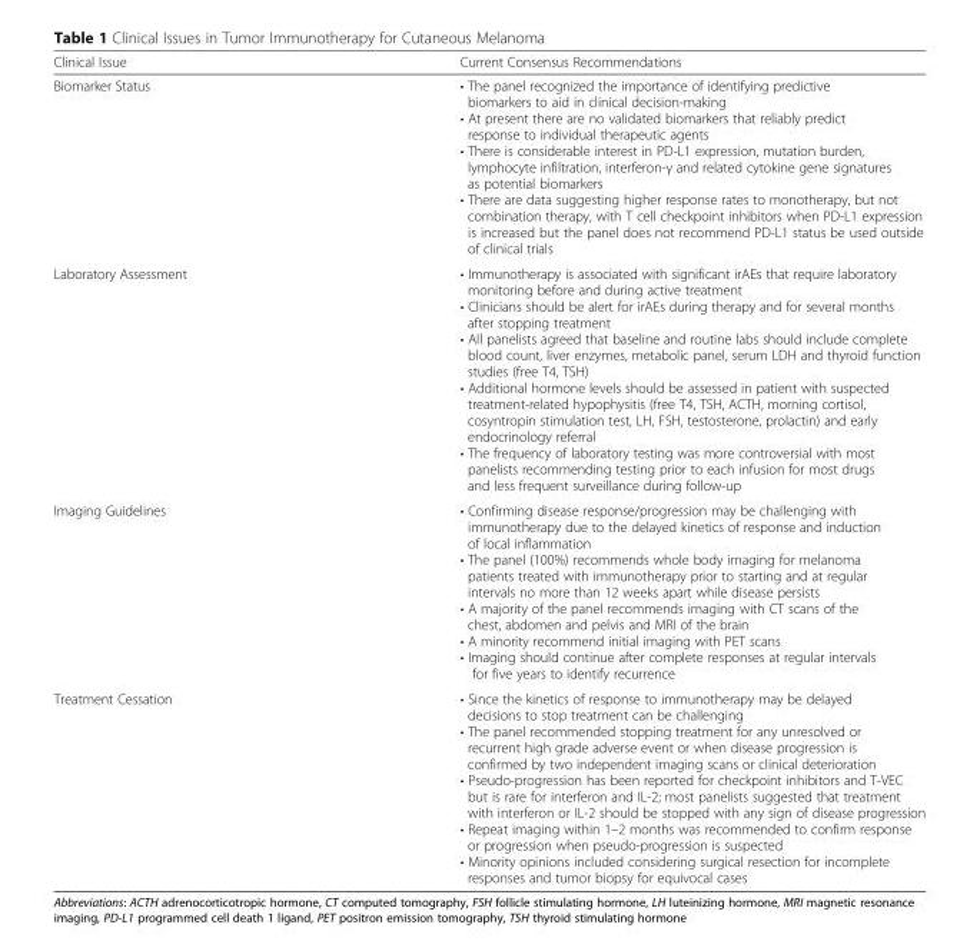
<table><thead><tr><td>Clinical Issue</td><td>Current Consensus Recommendations</td></tr></thead><tbody><tr><td>Biomarker Status</td><td>• The panel recognized the importance of identifying predictive biomarkers to aid in clinical decision-making • At present there are no validated biomarkers that reliably predict response to individual therapeutic agents • There is considerable interest in PD-L1 expression, mutation burden, lymphocyte infiltration, interferon-γ and related cytokine gene signatures as potential biomarkers • There are data suggesting higher response rates to monotherapy, but not combination therapy, with T cell checkpoint inhibitors when PD-L1 expression is increased but the panel does not recommend PD-L1 status be used outside of clinical trials</td></tr><tr><td>Laboratory Assessment</td><td>• Immunotherapy is associated with significant irAEs that require laboratory monitoring before and during active treatment • Clinicians should be alert for irAEs during therapy and for several months after stopping treatment • All panelists agreed that baseline and routine labs should include complete blood count, liver enzymes, metabolic panel, serum LDH and thyroid function studies (free T4, TSH) • Additional hormone levels should be assessed in patient with suspected treatment-related hypophysitis (free T4, TSH, ACTH, morning cortisol, cosyntropin stimulation test, LH, FSH, testosterone, prolactin) and early endocrinology referral • The frequency of laboratory testing was more controversial with most panelists recommending testing prior to each infusion for most drugs and less frequent surveillance during follow-up</td></tr><tr><td>Imaging Guidelines</td><td>• Confirming disease response/progression may be challenging with immunotherapy due to the delayed kinetics of response and induction of local inflammation • The panel (100%) recommends whole body imaging for melanoma patients treated with immunotherapy prior to starting and at regular intervals no more than 12 weeks apart while disease persists • A majority of the panel recommends imaging with CT scans of the chest, abdomen and pelvis and MRI of the brain • A minority recommend initial imaging with PET scans • Imaging should continue after complete responses at regular intervals for five years to identify recurrence</td></tr><tr><td>Treatment Cessation</td><td>• Since the kinetics of response to immunotherapy may be delayed decisions to stop treatment can be challenging • The panel recommended stopping treatment for any unresolved or recurrent high grade adverse event or when disease progression is confirmed by two independent imaging scans or clinical deterioration • Pseudo-progression has been reported for checkpoint inhibitors and T-VEC but is rare for interferon and IL-2; most panelists suggested that treatment with interferon or IL-2 should be stopped with any sign of disease progression • Repeat imaging within 1–2 months was recommended to confirm response or progression when pseudo-progression is suspected • Minority opinions included considering surgical resection for incomplete responses and tumor biopsy for equivocal cases</td></tr></tbody></table>